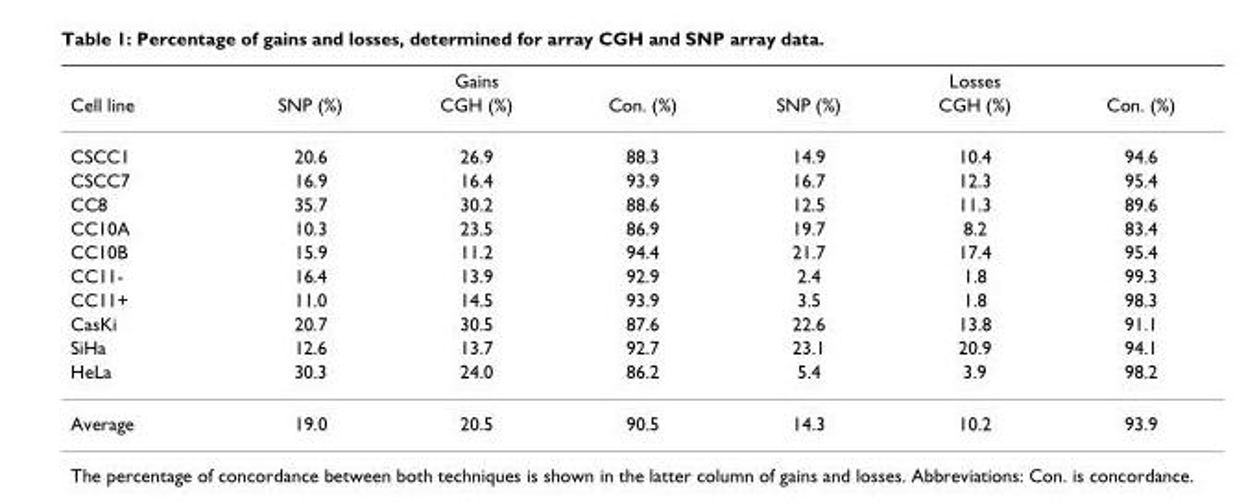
<table><thead><tr><td rowspan="2">Cell line</td><td colspan="3">Gains</td><td colspan="3">Losses</td></tr><tr><td>SNP (%)</td><td>CGH (%)</td><td>Con. (%)</td><td>SNP (%)</td><td>CGH (%)</td><td>Con. (%)</td></tr></thead><tbody><tr><td>CSCC1</td><td>20.6</td><td>26.9</td><td>88.3</td><td>14.9</td><td>10.4</td><td>94.6</td></tr><tr><td>CSCC7</td><td>16.9</td><td>16.4</td><td>93.9</td><td>16.7</td><td>12.3</td><td>95.4</td></tr><tr><td>CC8</td><td>35.7</td><td>30.2</td><td>88.6</td><td>12.5</td><td>11.3</td><td>89.6</td></tr><tr><td>CC10A</td><td>10.3</td><td>23.5</td><td>86.9</td><td>19.7</td><td>8.2</td><td>83.4</td></tr><tr><td>CC10B</td><td>15.9</td><td>11.2</td><td>94.4</td><td>21.7</td><td>17.4</td><td>95.4</td></tr><tr><td>CC11-</td><td>16.4</td><td>13.9</td><td>92.9</td><td>2.4</td><td>1.8</td><td>99.3</td></tr><tr><td>CC11+</td><td>11.0</td><td>14.5</td><td>93.9</td><td>3.5</td><td>1.8</td><td>98.3</td></tr><tr><td>CasKi</td><td>20.7</td><td>30.5</td><td>87.6</td><td>22.6</td><td>13.8</td><td>91.1</td></tr><tr><td>SiHa</td><td>12.6</td><td>13.7</td><td>92.7</td><td>23.1</td><td>20.9</td><td>94.1</td></tr><tr><td>HeLa</td><td>30.3</td><td>24.0</td><td>86.2</td><td>5.4</td><td>3.9</td><td>98.2</td></tr><tr><td>Average</td><td>19.0</td><td>20.5</td><td>90.5</td><td>14.3</td><td>10.2</td><td>93.9</td></tr></tbody></table>